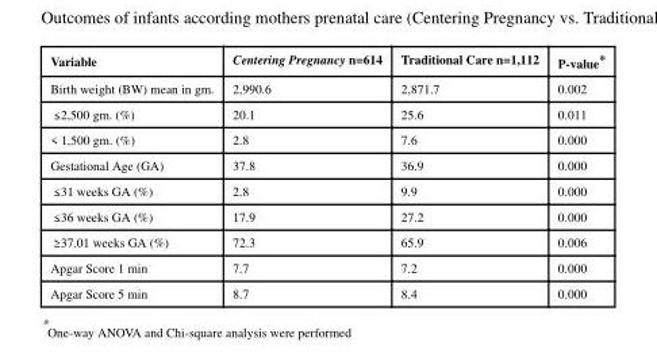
<table><thead><tr><td>Variable</td><td>Centering Pregnancy n=614</td><td>Traditional Care n=1,112</td><td>P-value*</td></tr></thead><tbody><tr><td>Birth weight (BW) mean in gm.</td><td>2,990.6</td><td>2,871.7</td><td>0.002</td></tr><tr><td>≤ 2,500 gm. (%)</td><td>20.1</td><td>25.6</td><td>0.011</td></tr><tr><td>&lt; 1,500 gm. (%)</td><td>2.8</td><td>7.6</td><td>0.000</td></tr><tr><td>Gestational Age (GA)</td><td>37.8</td><td>36.9</td><td>0.000</td></tr><tr><td>≤ 31 weeks GA (%)</td><td>2.8</td><td>9.9</td><td>0.000</td></tr><tr><td>≤ 36 weeks GA (%)</td><td>17.9</td><td>27.2</td><td>0.000</td></tr><tr><td>≥ 37.01 weeks GA (%)</td><td>72.3</td><td>65.9</td><td>0.006</td></tr><tr><td>Apgar Score 1 min</td><td>7.7</td><td>7.2</td><td>0.000</td></tr><tr><td>Apgar Score 5 min</td><td>8.7</td><td>8.4</td><td>0.000</td></tr></tbody></table>